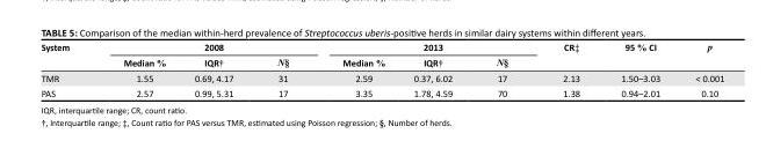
<table><thead><tr><td rowspan="2">System</td><td colspan="3">2008</td><td colspan="3">2013</td><td rowspan="2">CR‡</td><td rowspan="2">95 % CI</td><td rowspan="2">p</td></tr><tr><td>Median %</td><td>IQR†</td><td>N§</td><td>Median %</td><td>IQR†</td><td>N§</td></tr></thead><tbody><tr><td>TMR</td><td>1.55</td><td>0.69, 4.17</td><td>31</td><td>2.59</td><td>0.37, 6.02</td><td>17</td><td>2.13</td><td>1.50–3.03</td><td>&lt; 0.001</td></tr><tr><td>PAS</td><td>2.57</td><td>0.99, 5.31</td><td>17</td><td>3.35</td><td>1.78, 4.59</td><td>70</td><td>1.38</td><td>0.94–2.01</td><td>0.10</td></tr></tbody></table>